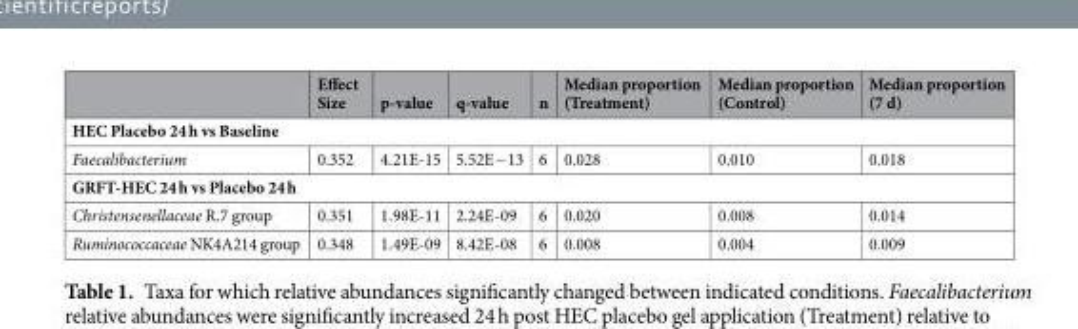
<table><thead><tr><td></td><td>Effect Size</td><td>p-value</td><td>q-value</td><td>n</td><td>Median proportion (Treatment)</td><td>Median proportion (Control)</td><td>Median proportion (7 d)</td></tr></thead><tbody><tr><td colspan="8">HEC Placebo 24 h vs Baseline</td></tr><tr><td>Faecalibacterium</td><td>0.352</td><td>4.21E-15</td><td>5.52E−13</td><td>6</td><td>0.028</td><td>0.010</td><td>0.018</td></tr><tr><td colspan="8">GRFT-HEC 24 h vs Placebo 24 h</td></tr><tr><td>Christensenellaceae R.7 group</td><td>0.351</td><td>1.98E-11</td><td>2.24E-09</td><td>6</td><td>0.020</td><td>0.008</td><td>0.014</td></tr><tr><td>Ruminococcaceae NK4A214 group</td><td>0.348</td><td>1.49E-09</td><td>8.42E-08</td><td>6</td><td>0.008</td><td>0.004</td><td>0.009</td></tr></tbody></table>